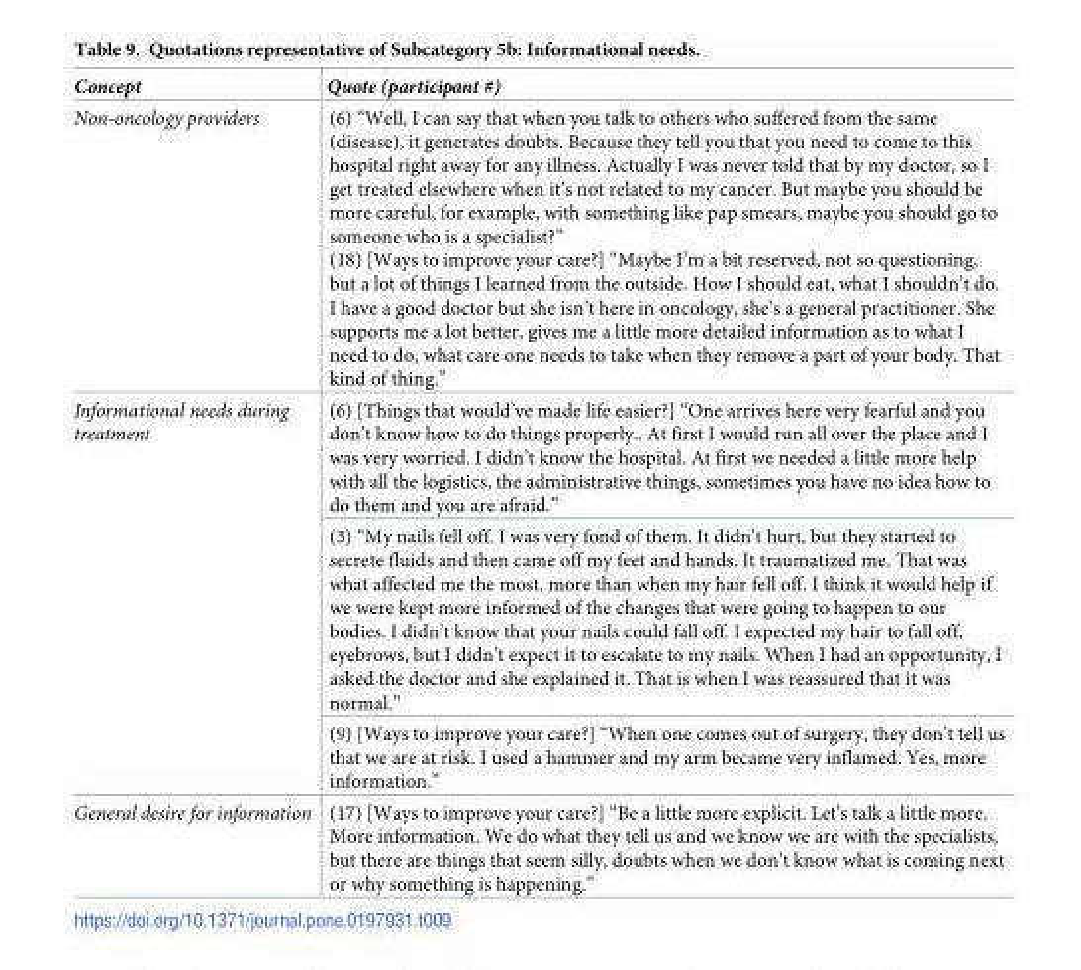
<table><thead><tr><td>Concept</td><td>Quote (participant #)</td></tr></thead><tbody><tr><td>Non-oncology providers</td><td>(6) “Well, I can say that when you talk to others who suffered from the same (disease), it generates doubts. Because they tell you that you need to come to this hospital right away for any illness. Actually I was never told that by my doctor, so I get treated elsewhere when it’s not related to my cancer. But maybe you should be more careful, for example, with something like pap smears, maybe you should go to someone who is a specialist?” (18) [Ways to improve your care?] “Maybe I’m a bit reserved, not so questioning, but a lot of things I learned from the outside. How I should eat, what I shouldn’t do. I have a good doctor but she isn’t here in oncology, she’s a general practitioner. She supports me a lot better, gives me a little more detailed information as to what I need to do, what care one needs to take when they remove a part of your body. That kind of thing.”</td></tr><tr><td rowspan="3">Informational needs during treatment</td><td>(6) [Things that would’ve made life easier?] “One arrives here very fearful and you don’t know how to do things properly.. At first I would run all over the place and I was very worried. I didn’t know the hospital. At first we needed a little more help with all the logistics, the administrative things, sometimes you have no idea how to do them and you are afraid.”</td></tr><tr><td>(3) “My nails fell off. I was very fond of them. It didn’t hurt, but they started to secrete fluids and then came off my feet and hands. It traumatized me. That was what affected me the most, more than when my hair fell off. I think it would help if we were kept more informed of the changes that were going to happen to our bodies. I didn’t know that your nails could fall off. I expected my hair to fall off, eyebrows, but I didn’t expect it to escalate to my nails. When I had an opportunity, I asked the doctor and she explained it. That is when I was reassured that it was normal.”</td></tr><tr><td>(9) [Ways to improve your care?] “When one comes out of surgery, they don’t tell us that we are at risk. I used a hammer and my arm became very inflamed. Yes, more information.”</td></tr><tr><td>General desire for information</td><td>(17) [Ways to improve your care?] “Be a little more explicit. Let’s talk a little more. More information. We do what they tell us and we know we are with the specialists, but there are things that seem silly, doubts when we don’t know what is coming next or why something is happening.”</td></tr></tbody></table>